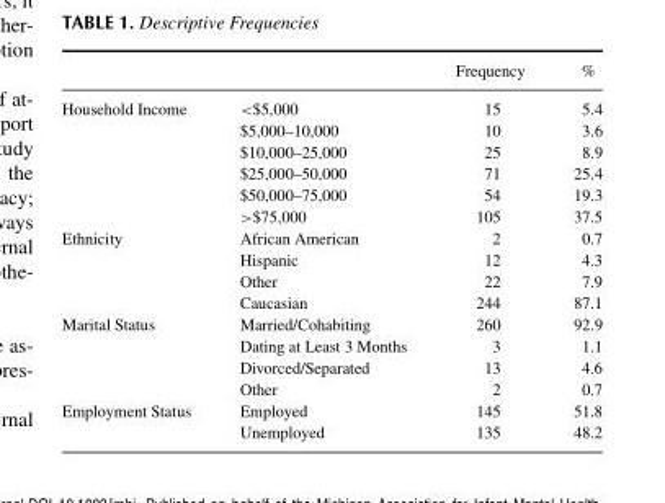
<table><thead><tr><td></td><td></td><td>Frequency</td><td>%</td></tr></thead><tbody><tr><td rowspan="6">Household Income</td><td>&lt;$5,000</td><td>15</td><td>5.4</td></tr><tr><td>$5,000–10,000</td><td>10</td><td>3.6</td></tr><tr><td>$10,000–25,000</td><td>25</td><td>8.9</td></tr><tr><td>$25,000–50,000</td><td>71</td><td>25.4</td></tr><tr><td>$50,000–75,000</td><td>54</td><td>19.3</td></tr><tr><td>&gt;$75,000</td><td>105</td><td>37.5</td></tr><tr><td rowspan="4">Ethnicity</td><td>African American</td><td>2</td><td>0.7</td></tr><tr><td>Hispanic</td><td>12</td><td>4.3</td></tr><tr><td>Other</td><td>22</td><td>7.9</td></tr><tr><td>Caucasian</td><td>244</td><td>87.1</td></tr><tr><td rowspan="4">Marital Status</td><td>Married/Cohabiting</td><td>260</td><td>92.9</td></tr><tr><td>Dating at Least 3 Months</td><td>3</td><td>1.1</td></tr><tr><td>Divorced/Separated</td><td>13</td><td>4.6</td></tr><tr><td>Other</td><td>2</td><td>0.7</td></tr><tr><td rowspan="2">Employment Status</td><td>Employed</td><td>145</td><td>51.8</td></tr><tr><td>Unemployed</td><td>135</td><td>48.2</td></tr></tbody></table>